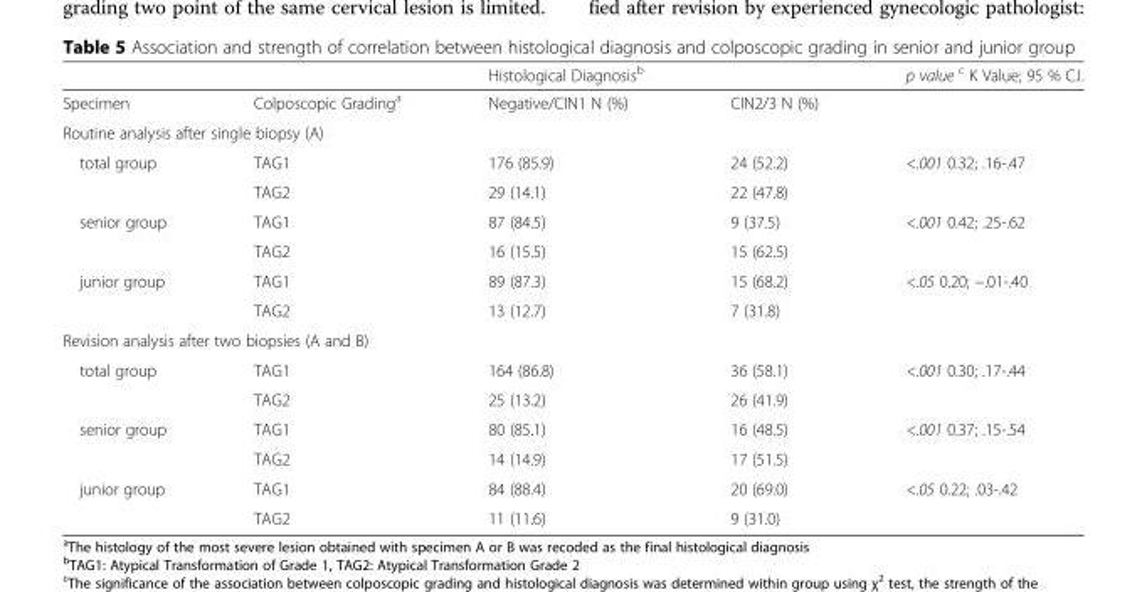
<table><thead><tr><td></td><td></td><td>Histological Diagnosis<sup>b</sup></td><td></td><td>p value <sup>c</sup> K Value; 95 % C.I.</td></tr></thead><tbody><tr><td>Specimen</td><td>Colposcopic Grading<sup>a</sup></td><td>Negative/CIN1 N (%)</td><td>CIN2/3 N (%)</td><td></td></tr><tr><td colspan="5">Routine analysis after single biopsy (A)</td></tr><tr><td rowspan="2">total group</td><td>TAG1</td><td>176 (85.9)</td><td>24 (52.2)</td><td rowspan="2">&lt;.001 0.32; .16-.47</td></tr><tr><td>TAG2</td><td>29 (14.1)</td><td>22 (47.8)</td></tr><tr><td rowspan="2">senior group</td><td>TAG1</td><td>87 (84.5)</td><td>9 (37.5)</td><td rowspan="2">&lt;.001 0.42; .25-.62</td></tr><tr><td>TAG2</td><td>16 (15.5)</td><td>15 (62.5)</td></tr><tr><td rowspan="2">junior group</td><td>TAG1</td><td>89 (87.3)</td><td>15 (68.2)</td><td rowspan="2">&lt;.05 0.20; −.01-.40</td></tr><tr><td>TAG2</td><td>13 (12.7)</td><td>7 (31.8)</td></tr><tr><td colspan="5">Revision analysis after two biopsies (A and B)</td></tr><tr><td rowspan="2">total group</td><td>TAG1</td><td>164 (86.8)</td><td>36 (58.1)</td><td rowspan="2">&lt;.001 0.30; .17-.44</td></tr><tr><td>TAG2</td><td>25 (13.2)</td><td>26 (41.9)</td></tr><tr><td rowspan="2">senior group</td><td>TAG1</td><td>80 (85.1)</td><td>16 (48.5)</td><td rowspan="2">&lt;.001 0.37; .15-.54</td></tr><tr><td>TAG2</td><td>14 (14.9)</td><td>17 (51.5)</td></tr><tr><td rowspan="2">junior group</td><td>TAG1</td><td>84 (88.4)</td><td>20 (69.0)</td><td rowspan="2">&lt;.05 0.22; .03-.42</td></tr><tr><td>TAG2</td><td>11 (11.6)</td><td>9 (31.0)</td></tr></tbody></table>